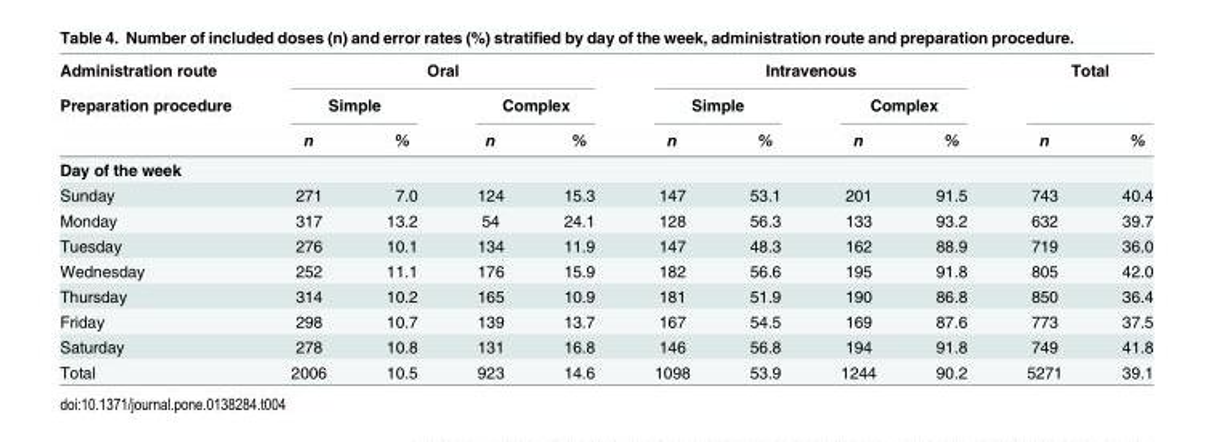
<table><thead><tr><td rowspan="3">Administration route Preparation procedure</td><td colspan="4">Oral</td><td colspan="4">Intravenous</td><td colspan="2">Total</td></tr><tr><td colspan="2">Simple</td><td colspan="2">Complex</td><td colspan="2">Simple</td><td colspan="2">Complex</td><td rowspan="2">n</td><td rowspan="2">%</td></tr><tr><td>n</td><td>%</td><td>n</td><td>%</td><td>n</td><td>%</td><td>n</td><td>%</td></tr></thead><tbody><tr><td colspan="11">Day of the week</td></tr><tr><td>Sunday</td><td>271</td><td>7.0</td><td>124</td><td>15.3</td><td>147</td><td>53.1</td><td>201</td><td>91.5</td><td>743</td><td>40.4</td></tr><tr><td>Monday</td><td>317</td><td>13.2</td><td>54</td><td>24.1</td><td>128</td><td>56.3</td><td>133</td><td>93.2</td><td>632</td><td>39.7</td></tr><tr><td>Tuesday</td><td>276</td><td>10.1</td><td>134</td><td>11.9</td><td>147</td><td>48.3</td><td>162</td><td>88.9</td><td>719</td><td>36.0</td></tr><tr><td>Wednesday</td><td>252</td><td>11.1</td><td>176</td><td>15.9</td><td>182</td><td>56.6</td><td>195</td><td>91.8</td><td>805</td><td>42.0</td></tr><tr><td>Thursday</td><td>314</td><td>10.2</td><td>165</td><td>10.9</td><td>181</td><td>51.9</td><td>190</td><td>86.8</td><td>850</td><td>36.4</td></tr><tr><td>Friday</td><td>298</td><td>10.7</td><td>139</td><td>13.7</td><td>167</td><td>54.5</td><td>169</td><td>87.6</td><td>773</td><td>37.5</td></tr><tr><td>Saturday</td><td>278</td><td>10.8</td><td>131</td><td>16.8</td><td>146</td><td>56.8</td><td>194</td><td>91.8</td><td>749</td><td>41.8</td></tr><tr><td>Total</td><td>2006</td><td>10.5</td><td>923</td><td>14.6</td><td>1098</td><td>53.9</td><td>1244</td><td>90.2</td><td>5271</td><td>39.1</td></tr></tbody></table>